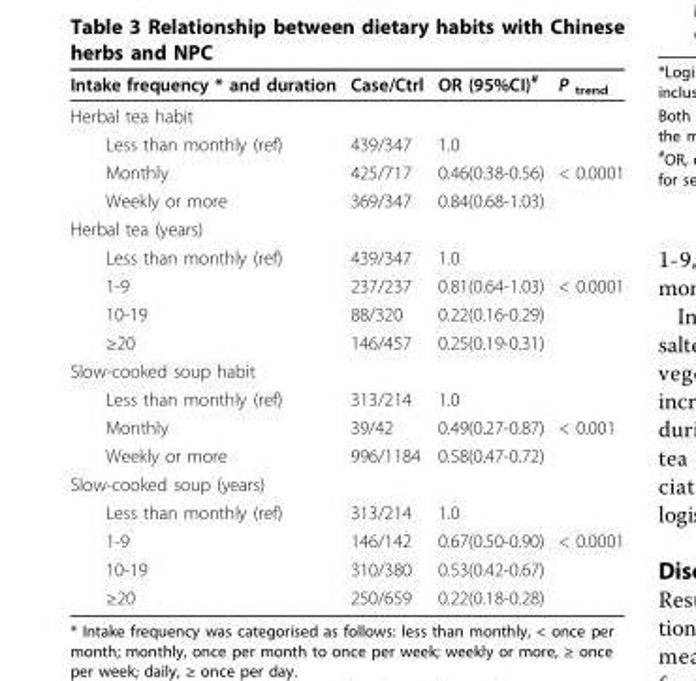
<table><thead><tr><td>Intake frequency * and duration</td><td>Case/Ctrl</td><td>OR (95%CI)<sup>#</sup></td><td>P <sub>trend</sub></td></tr></thead><tbody><tr><td colspan="4">Herbal tea habit</td></tr><tr><td>Less than monthly (ref)</td><td>439/347</td><td>1.0</td><td></td></tr><tr><td>Monthly</td><td>425/717</td><td>0.46(0.38-0.56)</td><td>&lt; 0.0001</td></tr><tr><td>Weekly or more</td><td>369/347</td><td>0.84(0.68-1.03)</td><td></td></tr><tr><td colspan="4">Herbal tea (years)</td></tr><tr><td>Less than monthly (ref)</td><td>439/347</td><td>1.0</td><td></td></tr><tr><td>1-9</td><td>237/237</td><td>0.81(0.64-1.03)</td><td>&lt; 0.0001</td></tr><tr><td>10-19</td><td>88/320</td><td>0.22(0.16-0.29)</td><td></td></tr><tr><td>≥20</td><td>146/457</td><td>0.25(0.19-0.31)</td><td></td></tr><tr><td colspan="4">Slow-cooked soup habit</td></tr><tr><td>Less than monthly (ref)</td><td>313/214</td><td>1.0</td><td></td></tr><tr><td>Monthly</td><td>39/42</td><td>0.49(0.27-0.87)</td><td>&lt; 0.001</td></tr><tr><td>Weekly or more</td><td>996/1184</td><td>0.58(0.47-0.72)</td><td></td></tr><tr><td colspan="4">Slow-cooked soup (years)</td></tr><tr><td>Less than monthly (ref)</td><td>313/214</td><td>1.0</td><td></td></tr><tr><td>1-9</td><td>146/142</td><td>0.67(0.50-0.90)</td><td>&lt; 0.0001</td></tr><tr><td>10-19</td><td>310/380</td><td>0.53(0.42-0.67)</td><td></td></tr><tr><td>≥20</td><td>250/659</td><td>0.22(0.18-0.28)</td><td></td></tr></tbody></table>